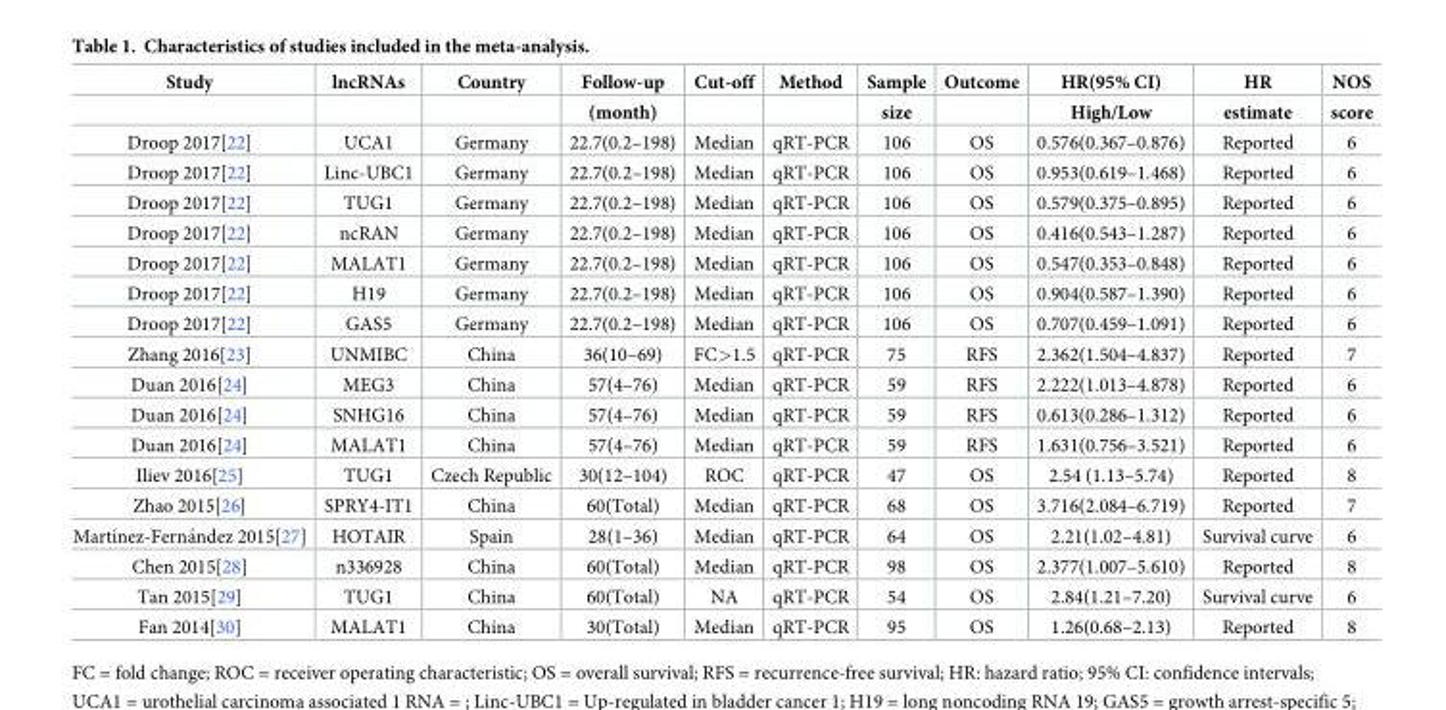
<table><thead><tr><td rowspan="2">Study</td><td rowspan="2">lncRNAs</td><td rowspan="2">Country</td><td rowspan="2">Follow-up (month)</td><td rowspan="2">Cut-off</td><td rowspan="2">Method</td><td rowspan="2">Sample size</td><td rowspan="2">Outcome</td><td rowspan="2">HR(95% CI) High/Low</td><td rowspan="2">HR estimate</td><td rowspan="2">NOS score</td></tr><tr></tr></thead><tbody><tr><td>Droop 2017[22]</td><td>UCA1</td><td>Germany</td><td>22.7(0.2–198)</td><td>Median</td><td>qRT-PCR</td><td>106</td><td>OS</td><td>0.576(0.367–0.876)</td><td>Reported</td><td>6</td></tr><tr><td>Droop 2017[22]</td><td>Linc-UBC1</td><td>Germany</td><td>22.7(0.2–198)</td><td>Median</td><td>qRT-PCR</td><td>106</td><td>OS</td><td>0.953(0.619–1.468)</td><td>Reported</td><td>6</td></tr><tr><td>Droop 2017[22]</td><td>TUG1</td><td>Germany</td><td>22.7(0.2–198)</td><td>Median</td><td>qRT-PCR</td><td>106</td><td>OS</td><td>0.579(0.375–0.895)</td><td>Reported</td><td>6</td></tr><tr><td>Droop 2017[22]</td><td>ncRAN</td><td>Germany</td><td>22.7(0.2–198)</td><td>Median</td><td>qRT-PCR</td><td>106</td><td>OS</td><td>0.416(0.543–1.287)</td><td>Reported</td><td>6</td></tr><tr><td>Droop 2017[22]</td><td>MALAT1</td><td>Germany</td><td>22.7(0.2–198)</td><td>Median</td><td>qRT-PCR</td><td>106</td><td>OS</td><td>0.547(0.353–0.848)</td><td>Reported</td><td>6</td></tr><tr><td>Droop 2017[22]</td><td>H19</td><td>Germany</td><td>22.7(0.2–198)</td><td>Median</td><td>qRT-PCR</td><td>106</td><td>OS</td><td>0.904(0.587–1.390)</td><td>Reported</td><td>6</td></tr><tr><td>Droop 2017[22]</td><td>GAS5</td><td>Germany</td><td>22.7(0.2–198)</td><td>Median</td><td>qRT-PCR</td><td>106</td><td>OS</td><td>0.707(0.459–1.091)</td><td>Reported</td><td>6</td></tr><tr><td>Zhang 2016[23]</td><td>UNMIBC</td><td>China</td><td>36(10–69)</td><td>FC&gt;1.5</td><td>qRT-PCR</td><td>75</td><td>RFS</td><td>2.362(1.504–4.837)</td><td>Reported</td><td>7</td></tr><tr><td>Duan 2016[24]</td><td>MEG3</td><td>China</td><td>57(4–76)</td><td>Median</td><td>qRT-PCR</td><td>59</td><td>RFS</td><td>2.222(1.013–4.878)</td><td>Reported</td><td>6</td></tr><tr><td>Duan 2016[24]</td><td>SNHG16</td><td>China</td><td>57(4–76)</td><td>Median</td><td>qRT-PCR</td><td>59</td><td>RFS</td><td>0.613(0.286–1.312)</td><td>Reported</td><td>6</td></tr><tr><td>Duan 2016[24]</td><td>MALAT1</td><td>China</td><td>57(4–76)</td><td>Median</td><td>qRT-PCR</td><td>59</td><td>RFS</td><td>1.631(0.756–3.521)</td><td>Reported</td><td>6</td></tr><tr><td>Iliev 2016[25]</td><td>TUG1</td><td>Czech Republic</td><td>30(12–104)</td><td>ROC</td><td>qRT-PCR</td><td>47</td><td>OS</td><td>2.54 (1.13–5.74)</td><td>Reported</td><td>8</td></tr><tr><td>Zhao 2015[26]</td><td>SPRY4-IT1</td><td>China</td><td>60(Total)</td><td>Median</td><td>qRT-PCR</td><td>68</td><td>OS</td><td>3.716(2.084–6.719)</td><td>Reported</td><td>7</td></tr><tr><td>Martı´nez-Ferna´ndez 2015[27]</td><td>HOTAIR</td><td>Spain</td><td>28(1–36)</td><td>Median</td><td>qRT-PCR</td><td>64</td><td>OS</td><td>2.21(1.02–4.81)</td><td>Survival curve</td><td>6</td></tr><tr><td>Chen 2015[28]</td><td>n336928</td><td>China</td><td>60(Total)</td><td>Median</td><td>qRT-PCR</td><td>98</td><td>OS</td><td>2.377(1.007–5.610)</td><td>Reported</td><td>8</td></tr><tr><td>Tan 2015[29]</td><td>TUG1</td><td>China</td><td>60(Total)</td><td>NA</td><td>qRT-PCR</td><td>54</td><td>OS</td><td>2.84(1.21–7.20)</td><td>Survival curve</td><td>6</td></tr><tr><td>Fan 2014[30]</td><td>MALAT1</td><td>China</td><td>30(Total)</td><td>Median</td><td>qRT-PCR</td><td>95</td><td>OS</td><td>1.26(0.68–2.13)</td><td>Reported</td><td>8</td></tr></tbody></table>